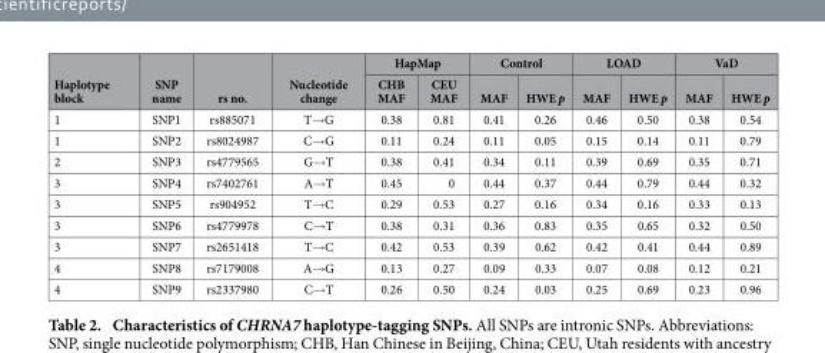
<table><thead><tr><td rowspan="2">Haplotype block</td><td rowspan="2">SNP name</td><td rowspan="2">rs no.</td><td rowspan="2">Nucleotide change</td><td colspan="2">HapMap</td><td colspan="2">Control</td><td colspan="2">LOAD</td><td colspan="2">VaD</td></tr><tr><td>CHB MAF</td><td>CEU MAF</td><td>MAF</td><td>HWE p</td><td>MAF</td><td>HWE p</td><td>MAF</td><td>HWE p</td></tr></thead><tbody><tr><td>1</td><td>SNP1</td><td>rs885071</td><td>T→ G</td><td>0.38</td><td>0.81</td><td>0.41</td><td>0.26</td><td>0.46</td><td>0.50</td><td>0.38</td><td>0.54</td></tr><tr><td>1</td><td>SNP2</td><td>rs8024987</td><td>C→ G</td><td>0.11</td><td>0.24</td><td>0.11</td><td>0.05</td><td>0.15</td><td>0.14</td><td>0.11</td><td>0.79</td></tr><tr><td>2</td><td>SNP3</td><td>rs4779565</td><td>G→ T</td><td>0.38</td><td>0.41</td><td>0.34</td><td>0.11</td><td>0.39</td><td>0.69</td><td>0.35</td><td>0.71</td></tr><tr><td>3</td><td>SNP4</td><td>rs7402761</td><td>A→ T</td><td>0.45</td><td>0</td><td>0.44</td><td>0.37</td><td>0.44</td><td>0.79</td><td>0.44</td><td>0.32</td></tr><tr><td>3</td><td>SNP5</td><td>rs904952</td><td>T→ C</td><td>0.29</td><td>0.53</td><td>0.27</td><td>0.16</td><td>0.34</td><td>0.16</td><td>0.33</td><td>0.13</td></tr><tr><td>3</td><td>SNP6</td><td>rs4779978</td><td>C→ T</td><td>0.38</td><td>0.31</td><td>0.36</td><td>0.83</td><td>0.35</td><td>0.65</td><td>0.32</td><td>0.50</td></tr><tr><td>3</td><td>SNP7</td><td>rs2651418</td><td>T→ C</td><td>0.42</td><td>0.53</td><td>0.39</td><td>0.62</td><td>0.42</td><td>0.41</td><td>0.44</td><td>0.89</td></tr><tr><td>4</td><td>SNP8</td><td>rs7179008</td><td>A→ G</td><td>0.13</td><td>0.27</td><td>0.09</td><td>0.33</td><td>0.07</td><td>0.08</td><td>0.12</td><td>0.21</td></tr><tr><td>4</td><td>SNP9</td><td>rs2337980</td><td>C→ T</td><td>0.26</td><td>0.50</td><td>0.24</td><td>0.03</td><td>0.25</td><td>0.69</td><td>0.23</td><td>0.96</td></tr></tbody></table>